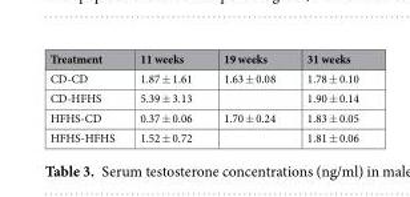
<table><thead><tr><td>Treatment</td><td>11 weeks</td><td>19 weeks</td><td>31 weeks</td></tr></thead><tbody><tr><td>CD-CD</td><td>1.87 ± 1.61</td><td>1.63 ± 0.08</td><td>1.78 ± 0.10</td></tr><tr><td>CD-HFHS</td><td>5.39 ± 3.13</td><td></td><td>1.90 ± 0.14</td></tr><tr><td>HFHS-CD</td><td>0.37 ± 0.06</td><td>1.70 ± 0.24</td><td>1.83 ± 0.05</td></tr><tr><td>HFHS-HFHS</td><td>1.52 ± 0.72</td><td></td><td>1.81 ± 0.06</td></tr></tbody></table>